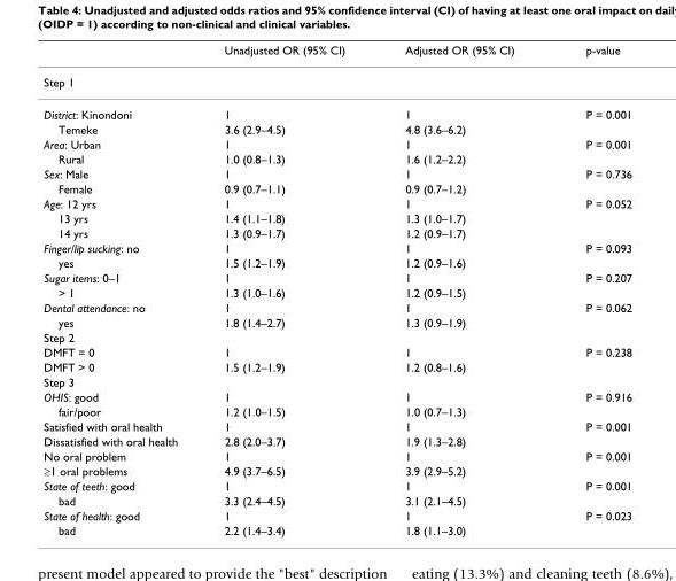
<table><thead><tr><td></td><td>Unadjusted OR (95% CI)</td><td>Adjusted OR (95% CI)</td><td>p-value</td></tr></thead><tbody><tr><td colspan="4">Step 1</td></tr><tr><td>District: Kinondoni</td><td>1</td><td>1</td><td>P = 0.001</td></tr><tr><td>Temeke</td><td>3.6 (2.9–4.5)</td><td>4.8 (3.6–6.2)</td><td></td></tr><tr><td>Area: Urban</td><td>1</td><td>1</td><td>P = 0.001</td></tr><tr><td>Rural</td><td>1.0 (0.8–1.3)</td><td>1.6 (1.2–2.2)</td><td></td></tr><tr><td>Sex: Male</td><td>1</td><td>1</td><td>P = 0.736</td></tr><tr><td>Female</td><td>0.9 (0.7–1.1)</td><td>0.9 (0.7–1.2)</td><td></td></tr><tr><td>Age: 12 yrs</td><td>1</td><td>1</td><td>P = 0.052</td></tr><tr><td>13 yrs</td><td>1.4 (1.1–1.8)</td><td>1.3 (1.0–1.7)</td><td></td></tr><tr><td>14 yrs</td><td>1.3 (0.9–1.7)</td><td>1.2 (0.9–1.7)</td><td></td></tr><tr><td>Finger/lip sucking: no</td><td>1</td><td>1</td><td>P = 0.093</td></tr><tr><td>yes</td><td>1.5 (1.2–1.9)</td><td>1.2 (0.9–1.6)</td><td></td></tr><tr><td>Sugar items: 0–1</td><td>1</td><td>1</td><td>P = 0.207</td></tr><tr><td>&gt; 1</td><td>1.3 (1.0–1.6)</td><td>1.2 (0.9–1.5)</td><td></td></tr><tr><td>Dental attendance: no</td><td>1</td><td>1</td><td>P = 0.062</td></tr><tr><td>yes</td><td>1.8 (1.4–2.7)</td><td>1.3 (0.9–1.9)</td><td></td></tr><tr><td colspan="4">Step 2</td></tr><tr><td>DMFT = 0</td><td>1</td><td>1</td><td>P = 0.238</td></tr><tr><td>DMFT &gt; 0</td><td>1.5 (1.2–1.9)</td><td>1.2 (0.8–1.6)</td><td></td></tr><tr><td colspan="4">Step 3</td></tr><tr><td>OHIS: good</td><td>1</td><td>1</td><td>P = 0.916</td></tr><tr><td>fair/poor</td><td>1.2 (1.0–1.5)</td><td>1.0 (0.7–1.3)</td><td></td></tr><tr><td>Satisfied with oral health</td><td>1</td><td>1</td><td>P = 0.001</td></tr><tr><td>Dissatisfied with oral health</td><td>2.8 (2.0–3.7)</td><td>1.9 (1.3–2.8)</td><td></td></tr><tr><td>No oral problem</td><td>1</td><td>1</td><td>P = 0.001</td></tr><tr><td>≥1 oral problems</td><td>4.9 (3.7–6.5)</td><td>3.9 (2.9–5.2)</td><td></td></tr><tr><td>State of teeth: good</td><td>1</td><td>1</td><td>P = 0.001</td></tr><tr><td>bad</td><td>3.3 (2.4–4.5)</td><td>3.1 (2.1–4.5)</td><td></td></tr><tr><td>State of health: good</td><td>1</td><td>1</td><td>P = 0.023</td></tr><tr><td>bad</td><td>2.2 (1.4–3.4)</td><td>1.8 (1.1–3.0)</td><td></td></tr></tbody></table>